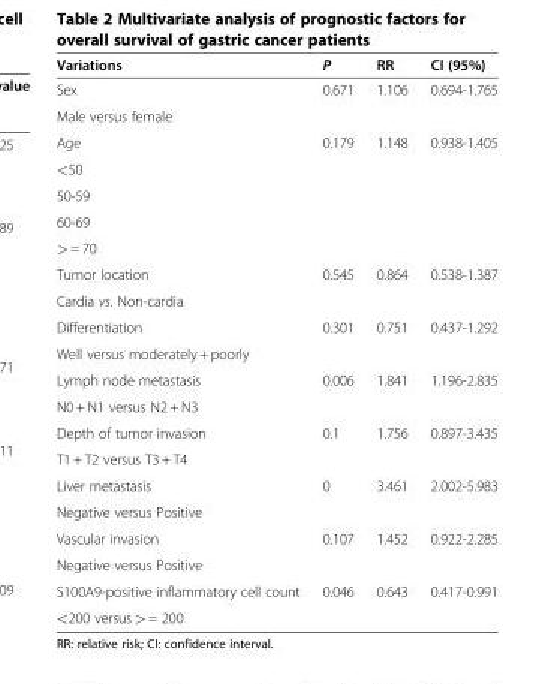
<table><thead><tr><td>Variations</td><td>P</td><td>RR</td><td>CI (95%)</td></tr></thead><tbody><tr><td>Sex</td><td>0.671</td><td>1.106</td><td>0.694-1.765</td></tr><tr><td colspan="4">Male versus female</td></tr><tr><td>Age</td><td>0.179</td><td>1.148</td><td>0.938-1.405</td></tr><tr><td colspan="4">&lt;50</td></tr><tr><td colspan="4">50-59</td></tr><tr><td colspan="4">60-69</td></tr><tr><td colspan="4">&gt; = 70</td></tr><tr><td>Tumor location</td><td>0.545</td><td>0.864</td><td>0.538-1.387</td></tr><tr><td colspan="4">Cardia vs. Non-cardia</td></tr><tr><td>Differentiation</td><td>0.301</td><td>0.751</td><td>0.437-1.292</td></tr><tr><td colspan="4">Well versus moderately + poorly</td></tr><tr><td>Lymph node metastasis</td><td>0.006</td><td>1.841</td><td>1.196-2.835</td></tr><tr><td colspan="4">N0 + N1 versus N2 + N3</td></tr><tr><td>Depth of tumor invasion</td><td>0.1</td><td>1.756</td><td>0.897-3.435</td></tr><tr><td colspan="4">T1 + T2 versus T3 + T4</td></tr><tr><td>Liver metastasis</td><td>0</td><td>3.461</td><td>2.002-5.983</td></tr><tr><td colspan="4">Negative versus Positive</td></tr><tr><td>Vascular invasion</td><td>0.107</td><td>1.452</td><td>0.922-2.285</td></tr><tr><td colspan="4">Negative versus Positive</td></tr><tr><td>S100A9-positive inflammatory cell count</td><td>0.046</td><td>0.643</td><td>0.417-0.991</td></tr><tr><td>&lt;200 versus &gt; = 200</td><td></td><td></td><td></td></tr></tbody></table>